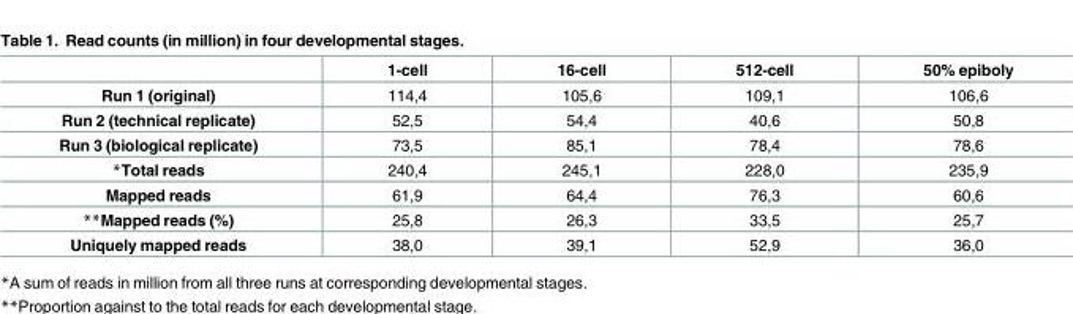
<table><thead><tr><td></td><td>1-cell</td><td>16-cell</td><td>512-cell</td><td>50% epiboly</td></tr></thead><tbody><tr><td>Run 1 (original)</td><td>114,4</td><td>105,6</td><td>109,1</td><td>106,6</td></tr><tr><td>Run 2 (technical replicate)</td><td>52,5</td><td>54,4</td><td>40,6</td><td>50,8</td></tr><tr><td>Run 3 (biological replicate)</td><td>73,5</td><td>85,1</td><td>78,4</td><td>78,6</td></tr><tr><td>*Total reads</td><td>240,4</td><td>245,1</td><td>228,0</td><td>235,9</td></tr><tr><td>Mapped reads</td><td>61,9</td><td>64,4</td><td>76,3</td><td>60,6</td></tr><tr><td>**Mapped reads (%)</td><td>25,8</td><td>26,3</td><td>33,5</td><td>25,7</td></tr><tr><td>Uniquely mapped reads</td><td>38,0</td><td>39,1</td><td>52,9</td><td>36,0</td></tr></tbody></table>